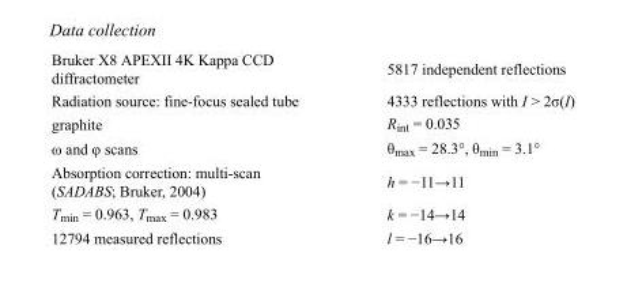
<table><tbody><tr><td>Bruker X8 APEXII 4K Kappa CCD diffractometer</td><td>5817 independent reflections</td></tr><tr><td>Radiation source: fine-focus sealed tube</td><td>4333 reflections with I &gt; 2σ(I)</td></tr><tr><td>graphite</td><td>R<sub>int</sub> = 0.035</td></tr><tr><td>ω and φ scans</td><td>θ<sub>max</sub> = 28.3°, θ<sub>min</sub> = 3.1°</td></tr><tr><td>Absorption correction: multi-scan (SADABS; Bruker, 2004)</td><td>h = −11→11</td></tr><tr><td>T<sub>min</sub> = 0.963, T<sub>max</sub> = 0.983</td><td>k = −14→14</td></tr><tr><td>12794 measured reflections</td><td>l = −16→16</td></tr></tbody></table>